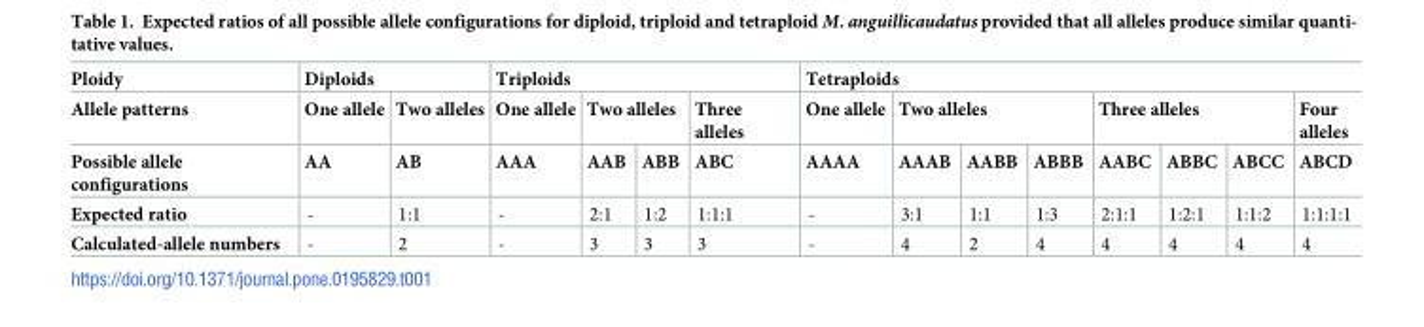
<table><thead><tr><td rowspan="3">Ploidy Allele patterns Possible allele configurations</td><td colspan="2">Diploids</td><td colspan="4">Triploids</td><td colspan="8">Tetraploids</td></tr><tr><td rowspan="2">One allele AA</td><td rowspan="2">Two alleles AB</td><td rowspan="2">One allele AAA</td><td colspan="2">Two alleles</td><td rowspan="2">Three alleles ABC</td><td rowspan="2">One allele AAAA</td><td colspan="3">Two alleles</td><td colspan="3">Three alleles</td><td rowspan="2">Four alleles ABCD</td></tr><tr><td>AAB</td><td>ABB</td><td>AAAB</td><td>AABB</td><td>ABBB</td><td>AABC</td><td>ABBC</td><td>ABCC</td></tr></thead><tbody><tr><td>Expected ratio</td><td>-</td><td>1:1</td><td>-</td><td>2:1</td><td>1:2</td><td>1:1:1</td><td>-</td><td>3:1</td><td>1:1</td><td>1:3</td><td>2:1:1</td><td>1:2:1</td><td>1:1:2</td><td>1:1:1:1</td></tr><tr><td>Calculated-allele numbers</td><td>-</td><td>2</td><td>-</td><td>3</td><td>3</td><td>3</td><td>-</td><td>4</td><td>2</td><td>4</td><td>4</td><td>4</td><td>4</td><td>4</td></tr></tbody></table>